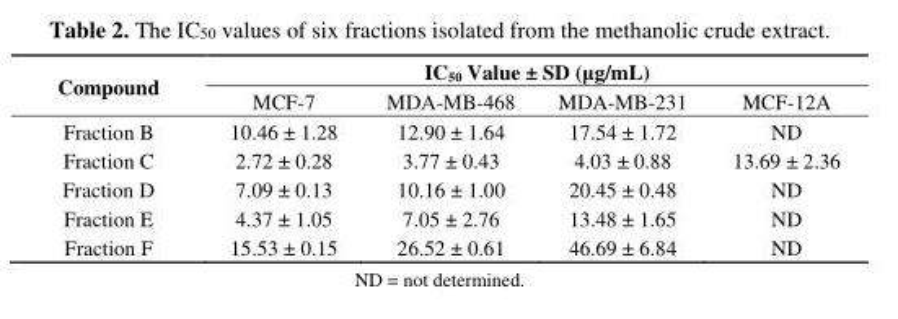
<table><thead><tr><td rowspan="2">Compound</td><td colspan="4">IC<sub>50</sub> Value ± SD (μg/mL)</td></tr><tr><td>MCF-7</td><td>MDA-MB-468</td><td>MDA-MB-231</td><td>MCF-12A</td></tr></thead><tbody><tr><td>Fraction B</td><td>10.46 ± 1.28</td><td>12.90 ± 1.64</td><td>17.54 ± 1.72</td><td>ND</td></tr><tr><td>Fraction C</td><td>2.72 ± 0.28</td><td>3.77 ± 0.43</td><td>4.03 ± 0.88</td><td>13.69 ± 2.36</td></tr><tr><td>Fraction D</td><td>7.09 ± 0.13</td><td>10.16 ± 1.00</td><td>20.45 ± 0.48</td><td>ND</td></tr><tr><td>Fraction E</td><td>4.37 ± 1.05</td><td>7.05 ± 2.76</td><td>13.48 ± 1.65</td><td>ND</td></tr><tr><td>Fraction F</td><td>15.53 ± 0.15</td><td>26.52 ± 0.61</td><td>46.69 ± 6.84</td><td>ND</td></tr></tbody></table>